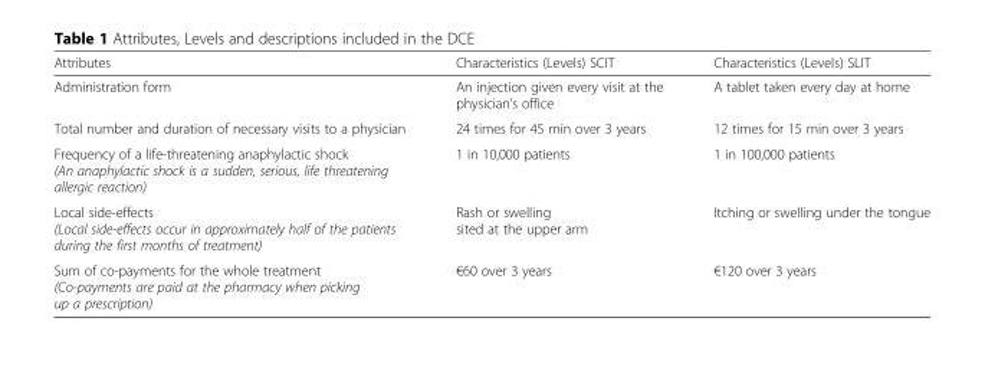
<table><thead><tr><td>Attributes</td><td>Characteristics (Levels) SCIT</td><td>Characteristics (Levels) SLIT</td></tr></thead><tbody><tr><td>Administration form</td><td>An injection given every visit at the physician’s office</td><td>A tablet taken every day at home</td></tr><tr><td>Total number and duration of necessary visits to a physician</td><td>24 times for 45 min over 3 years</td><td>12 times for 15 min over 3 years</td></tr><tr><td>Frequency of a life-threatening anaphylactic shock (An anaphylactic shock is a sudden, serious, life threatening allergic reaction)</td><td>1 in 10,000 patients</td><td>1 in 100,000 patients</td></tr><tr><td>Local side-effects (Local side-effects occur in approximately half of the patients during the first months of treatment)</td><td>Rash or swelling sited at the upper arm</td><td>Itching or swelling under the tongue</td></tr><tr><td>Sum of co-payments for the whole treatment (Co-payments are paid at the pharmacy when picking up a prescription)</td><td>€60 over 3 years</td><td>€120 over 3 years</td></tr></tbody></table>